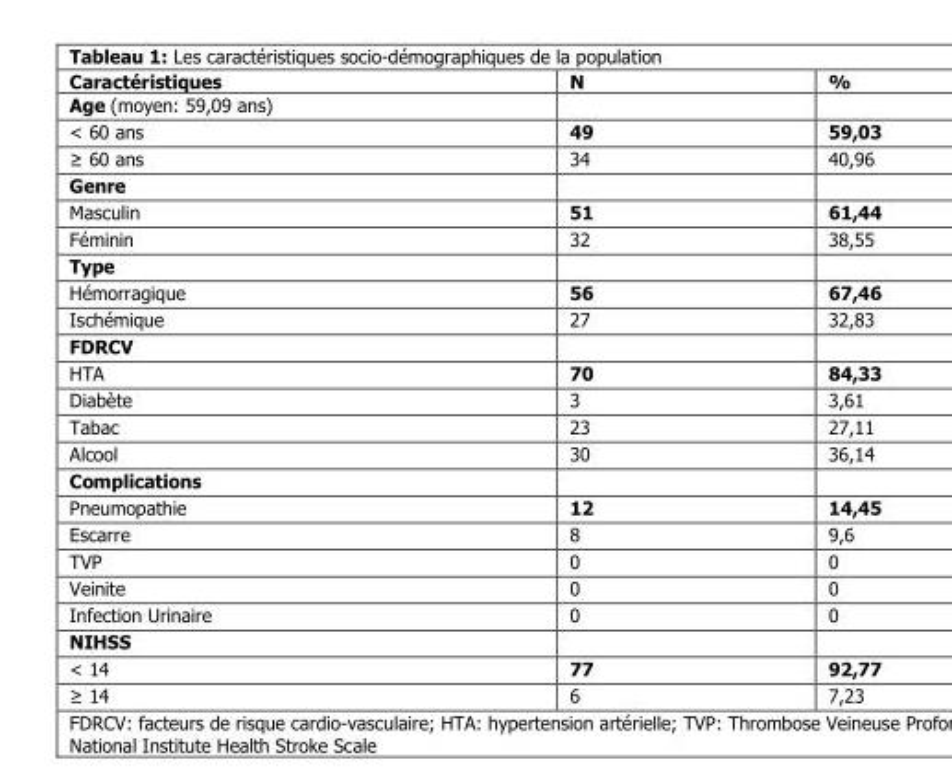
<table><thead><tr><td>Caractéristiques</td><td>N</td><td>%</td></tr></thead><tbody><tr><td colspan="3">Age (moyen: 59,09 ans)</td></tr><tr><td>&lt; 60 ans</td><td>49</td><td>59,03</td></tr><tr><td>≥ 60 ans</td><td>34</td><td>40,96</td></tr><tr><td colspan="3">Genre</td></tr><tr><td>Masculin</td><td>51</td><td>61,44</td></tr><tr><td>Féminin</td><td>32</td><td>38,55</td></tr><tr><td colspan="3">Type</td></tr><tr><td>Hémorragique</td><td>56</td><td>67,46</td></tr><tr><td>Ischémique</td><td>27</td><td>32,83</td></tr><tr><td colspan="3">FDRCV</td></tr><tr><td>HTA</td><td>70</td><td>84,33</td></tr><tr><td>Diabète</td><td>3</td><td>3,61</td></tr><tr><td>Tabac</td><td>23</td><td>27,11</td></tr><tr><td>Alcool</td><td>30</td><td>36,14</td></tr><tr><td colspan="3">Complications</td></tr><tr><td>Pneumopathie</td><td>12</td><td>14,45</td></tr><tr><td>Escarre</td><td>8</td><td>9,6</td></tr><tr><td>TVP</td><td>0</td><td>0</td></tr><tr><td>Veinite</td><td>0</td><td>0</td></tr><tr><td>Infection Urinaire</td><td>0</td><td>0</td></tr><tr><td colspan="3">NIHSS</td></tr><tr><td>&lt; 14</td><td>77</td><td>92,77</td></tr><tr><td>≥ 14</td><td>6</td><td>7,23</td></tr></tbody></table>